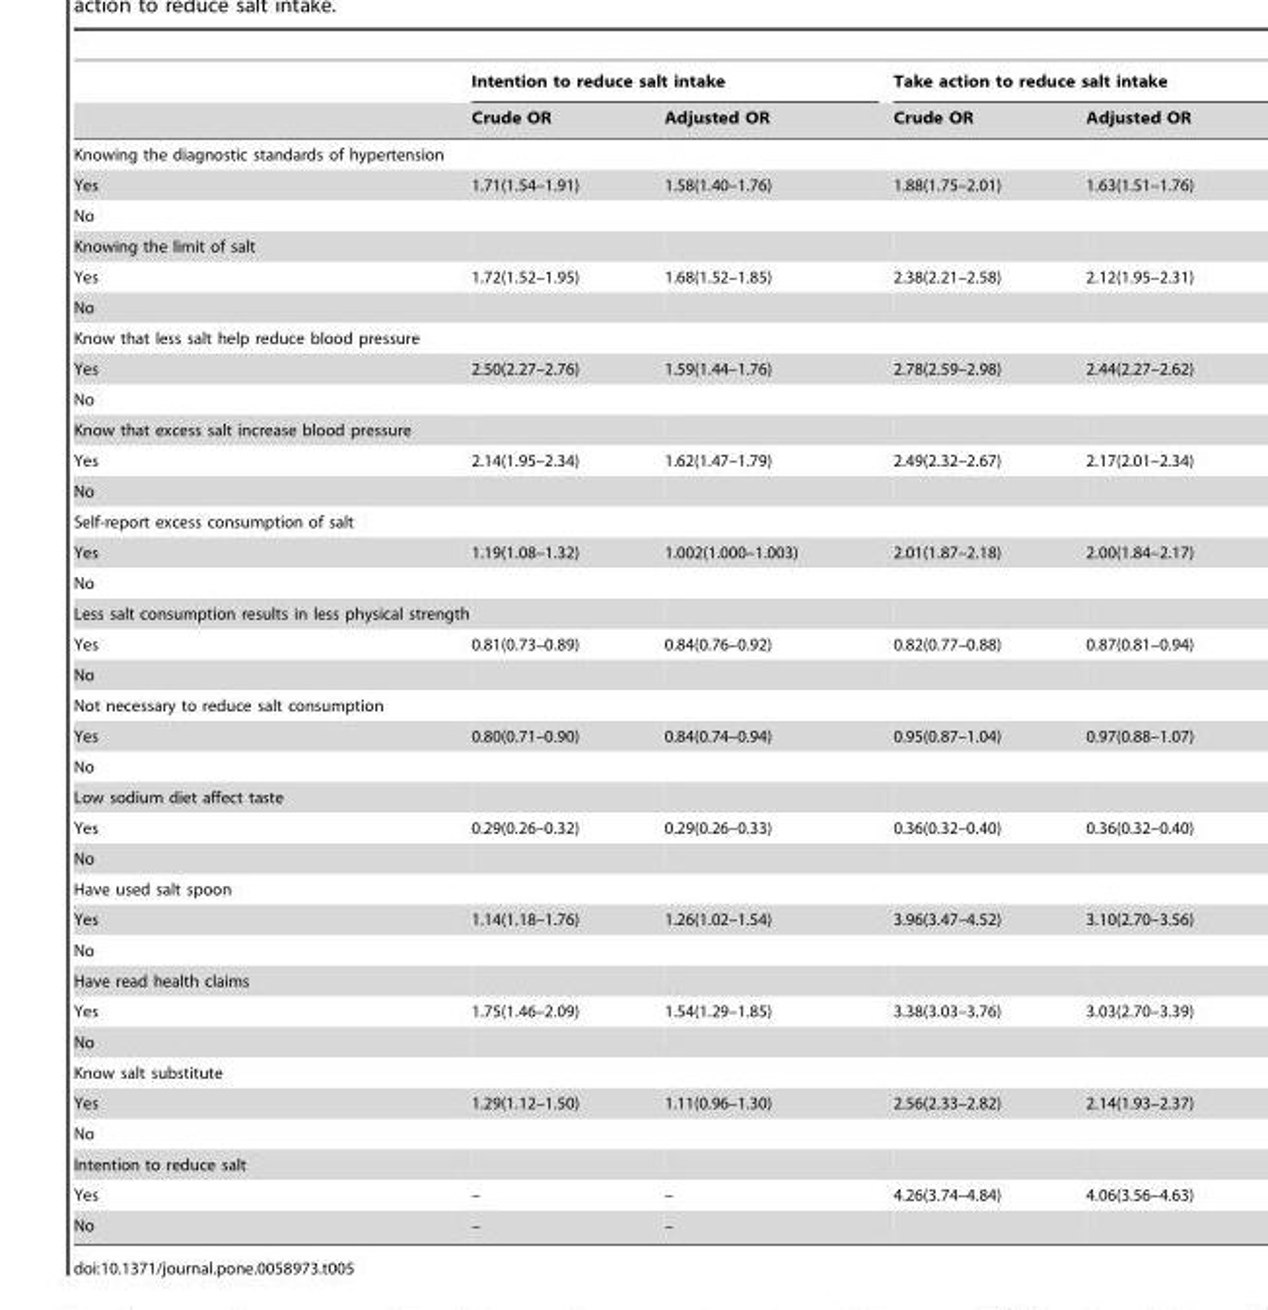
<table><thead><tr><td rowspan="2"></td><td colspan="2">Intention to reduce salt intake</td><td colspan="2">Take action to reduce salt intake</td></tr><tr><td>Crude OR</td><td>Adjusted OR</td><td>Crude OR</td><td>Adjusted OR</td></tr></thead><tbody><tr><td colspan="5">Knowing the diagnostic standards of hypertension</td></tr><tr><td>Yes</td><td>1.71(1.54–1.91)</td><td>1.58(1.40–1.76)</td><td>1.88(1.75–2.01)</td><td>1.63(1.51–1.76)</td></tr><tr><td colspan="5">No</td></tr><tr><td colspan="5">Knowing the limit of salt</td></tr><tr><td>Yes</td><td>1.72(1.52–1.95)</td><td>1.68(1.52–1.85)</td><td>2.38(2.21–2.58)</td><td>2.12(1.95–2.31)</td></tr><tr><td colspan="5">No</td></tr><tr><td colspan="5">Know that less salt help reduce blood pressure</td></tr><tr><td>Yes</td><td>2.50(2.27–2.76)</td><td>1.59(1.44–1.76)</td><td>2.78(2.59–2.98)</td><td>2.44(2.27–2.62)</td></tr><tr><td colspan="5">No</td></tr><tr><td colspan="5">Know that excess salt increase blood pressure</td></tr><tr><td>Yes</td><td>2.14(1.95–2.34)</td><td>1.62(1.47–1.79)</td><td>2.49(2.32–2.67)</td><td>2.17(2.01–2.34)</td></tr><tr><td colspan="5">No</td></tr><tr><td colspan="5">Self-report excess consumption of salt</td></tr><tr><td>Yes</td><td>1.19(1.08–1.32)</td><td>1.002(1.000–1.003)</td><td>2.01(1.87–2.18)</td><td>2.00(1.84–2.17)</td></tr><tr><td colspan="5">No</td></tr><tr><td colspan="5">Less salt consumption results in less physical strength</td></tr><tr><td>Yes</td><td>0.81(0.73–0.89)</td><td>0.84(0.76–0.92)</td><td>0.82(0.77–0.88)</td><td>0.87(0.81–0.94)</td></tr><tr><td colspan="5">No</td></tr><tr><td colspan="5">Not necessary to reduce salt consumption</td></tr><tr><td>Yes</td><td>0.80(0.71–0.90)</td><td>0.84(0.74–0.94)</td><td>0.95(0.87–1.04)</td><td>0.97(0.88–1.07)</td></tr><tr><td colspan="5">No</td></tr><tr><td colspan="5">Low sodium diet affect taste</td></tr><tr><td>Yes</td><td>0.29(0.26–0.32)</td><td>0.29(0.26–0.33)</td><td>0.36(0.32–0.40)</td><td>0.36(0.32–0.40)</td></tr><tr><td colspan="5">No</td></tr><tr><td colspan="5">Have used salt spoon</td></tr><tr><td>Yes</td><td>1.14(1.18–1.76)</td><td>1.26(1.02–1.54)</td><td>3.96(3.47–4.52)</td><td>3.10(2.70–3.56)</td></tr><tr><td colspan="5">No</td></tr><tr><td colspan="5">Have read health claims</td></tr><tr><td>Yes</td><td>1.75(1.46–2.09)</td><td>1.54(1.29–1.85)</td><td>3.38(3.03–3.76)</td><td>3.03(2.70–3.39)</td></tr><tr><td colspan="5">No</td></tr><tr><td colspan="5">Know salt substitute</td></tr><tr><td>Yes</td><td>1.29(1.12–1.50)</td><td>1.11(0.96–1.30)</td><td>2.56(2.33–2.82)</td><td>2.14(1.93–2.37)</td></tr><tr><td colspan="5">No</td></tr><tr><td colspan="5">Intention to reduce salt</td></tr><tr><td>Yes</td><td>–</td><td>–</td><td>4.26(3.74–4.84)</td><td>4.06(3.56–4.63)</td></tr><tr><td>No</td><td>–</td><td>–</td><td></td><td></td></tr></tbody></table>